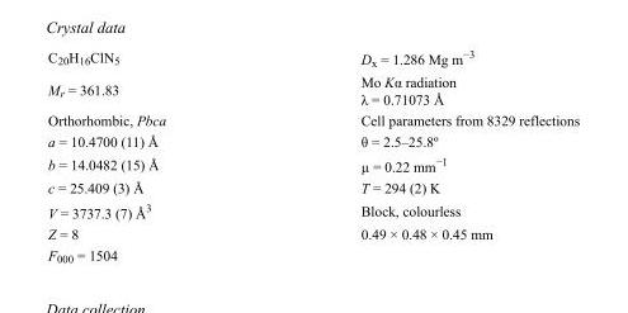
<table><tbody><tr><td>C<sub>20</sub>H<sub>16</sub>ClN<sub>5</sub></td><td>D<sub>x</sub> = 1.286 Mg m<sup>−3</sup></td></tr><tr><td>M<sub>r</sub> = 361.83</td><td>Mo Kα radiation λ = 0.71073 Å</td></tr><tr><td>Orthorhombic, Pbca</td><td>Cell parameters from 8329 reflections</td></tr><tr><td>a = 10.4700 (11) Å</td><td>θ = 2.5–25.8º</td></tr><tr><td>b = 14.0482 (15) Å</td><td>µ = 0.22 mm<sup>−1</sup></td></tr><tr><td>c = 25.409 (3) Å</td><td>T = 294 (2) K</td></tr><tr><td>V = 3737.3 (7) Å<sup>3</sup></td><td>Block, colourless</td></tr><tr><td>Z = 8</td><td>0.49 × 0.48 × 0.45 mm</td></tr><tr><td>F<sub>000</sub> = 1504</td><td></td></tr></tbody></table>